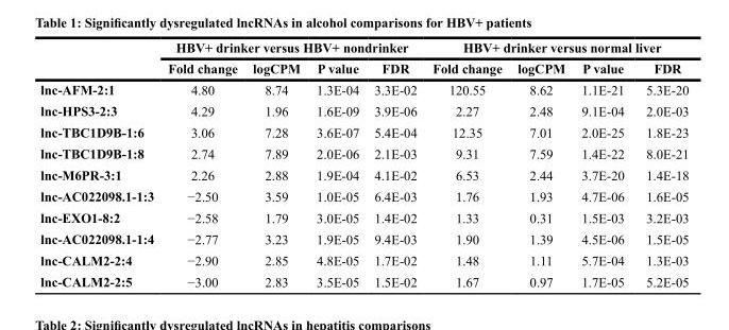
<table><thead><tr><td rowspan="2"></td><td colspan="4">HBV+ drinker versus HBV+ nondrinker</td><td colspan="4">HBV+ drinker versus normal liver</td></tr><tr><td>Fold change</td><td>logCPM</td><td>P value</td><td>FDR</td><td>Fold change</td><td>logCPM</td><td>P value</td><td>FDR</td></tr></thead><tbody><tr><td>lnc-AFM-2:1</td><td>4.80</td><td>8.74</td><td>1.3E-04</td><td>3.3E-02</td><td>120.55</td><td>8.62</td><td>1.1E-21</td><td>5.3E-20</td></tr><tr><td>lnc-HPS3-2:3</td><td>4.29</td><td>1.96</td><td>1.6E-09</td><td>3.9E-06</td><td>2.27</td><td>2.48</td><td>9.1E-04</td><td>2.0E-03</td></tr><tr><td>lnc-TBC1D9B-1:6</td><td>3.06</td><td>7.28</td><td>3.6E-07</td><td>5.4E-04</td><td>12.35</td><td>7.01</td><td>2.0E-25</td><td>1.8E-23</td></tr><tr><td>lnc-TBC1D9B-1:8</td><td>2.74</td><td>7.89</td><td>2.0E-06</td><td>2.1E-03</td><td>9.31</td><td>7.59</td><td>1.4E-22</td><td>8.0E-21</td></tr><tr><td>lnc-M6PR-3:1</td><td>2.26</td><td>2.88</td><td>1.9E-04</td><td>4.1E-02</td><td>6.53</td><td>2.44</td><td>3.7E-20</td><td>1.4E-18</td></tr><tr><td>lnc-AC022098.1-1:3</td><td>−2.50</td><td>3.59</td><td>1.0E-05</td><td>6.4E-03</td><td>1.76</td><td>1.93</td><td>4.7E-06</td><td>1.6E-05</td></tr><tr><td>lnc-EXO1-8:2</td><td>−2.58</td><td>1.79</td><td>3.0E-05</td><td>1.4E-02</td><td>1.33</td><td>0.31</td><td>1.5E-03</td><td>3.2E-03</td></tr><tr><td>lnc-AC022098.1-1:4</td><td>−2.77</td><td>3.23</td><td>1.9E-05</td><td>9.4E-03</td><td>1.90</td><td>1.39</td><td>4.5E-06</td><td>1.5E-05</td></tr><tr><td>lnc-CALM2-2:4</td><td>−2.90</td><td>2.85</td><td>4.8E-05</td><td>1.7E-02</td><td>1.48</td><td>1.11</td><td>5.7E-04</td><td>1.3E-03</td></tr><tr><td>lnc-CALM2-2:5</td><td>−3.00</td><td>2.83</td><td>3.5E-05</td><td>1.5E-02</td><td>1.67</td><td>0.97</td><td>1.7E-05</td><td>5.2E-05</td></tr></tbody></table>